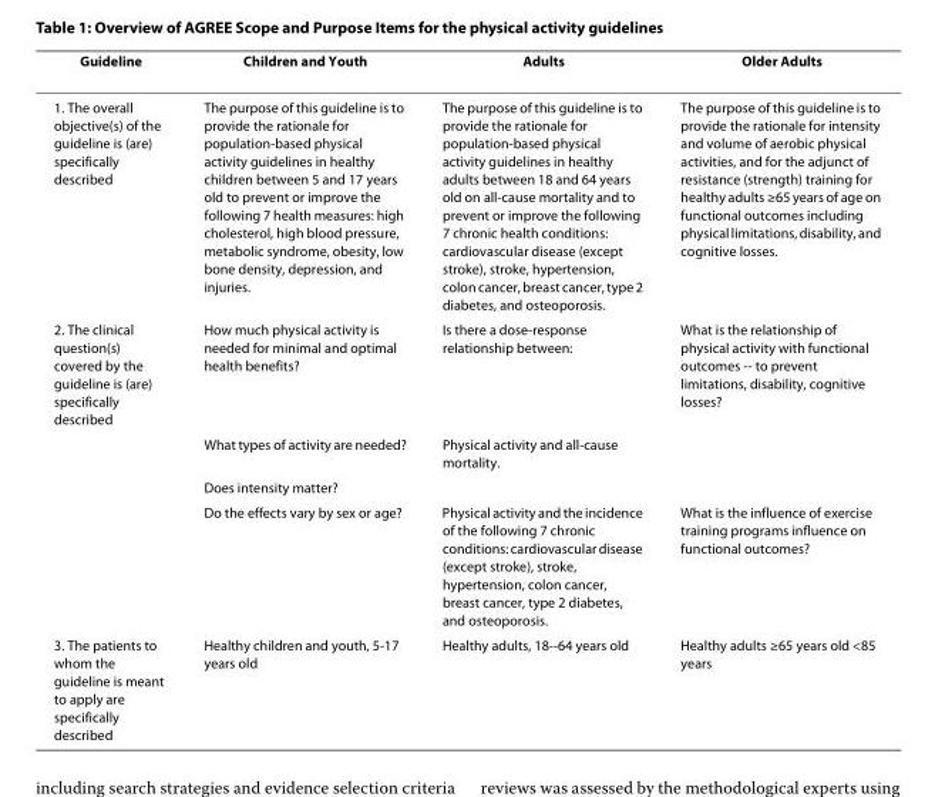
<table><thead><tr><td>Guideline</td><td>Children and Youth</td><td>Adults</td><td>Older Adults</td></tr></thead><tbody><tr><td>1. The overall objective(s) of the guideline is (are) specifically described</td><td>The purpose of this guideline is to provide the rationale for population-based physical activity guidelines in healthy children between 5 and 17 years old to prevent or improve the following 7 health measures: high cholesterol, high blood pressure, metabolic syndrome, obesity, low bone density, depression, and injuries.</td><td>The purpose of this guideline is to provide the rationale for population-based physical activity guidelines in healthy adults between 18 and 64 years old on all-cause mortality and to prevent or improve the following 7 chronic health conditions: cardiovascular disease (except stroke), stroke, hypertension, colon cancer, breast cancer, type 2 diabetes, and osteoporosis.</td><td>The purpose of this guideline is to provide the rationale for intensity and volume of aerobic physical activities, and for the adjunct of resistance (strength) training for healthy adults ≥65 years of age on functional outcomes including physical limitations, disability, and cognitive losses.</td></tr><tr><td rowspan="4">2. The clinical question(s) covered by the guideline is (are) specifically described</td><td>How much physical activity is needed for minimal and optimal health benefits?</td><td>Is there a dose-response relationship between:</td><td>What is the relationship of physical activity with functional outcomes -- to prevent limitations, disability, cognitive losses?</td></tr><tr><td>What types of activity are needed?</td><td>Physical activity and all-cause mortality.</td><td></td></tr><tr><td>Does intensity matter?</td><td></td><td></td></tr><tr><td>Do the effects vary by sex or age?</td><td>Physical activity and the incidence of the following 7 chronic conditions: cardiovascular disease (except stroke), stroke, hypertension, colon cancer, breast cancer, type 2 diabetes, and osteoporosis.</td><td>What is the influence of exercise training programs influence on functional outcomes?</td></tr><tr><td>3. The patients to whom the guideline is meant to apply are specifically described</td><td>Healthy children and youth, 5-17 years old</td><td>Healthy adults, 18--64 years old</td><td>Healthy adults ≥65 years old &lt;85 years</td></tr></tbody></table>